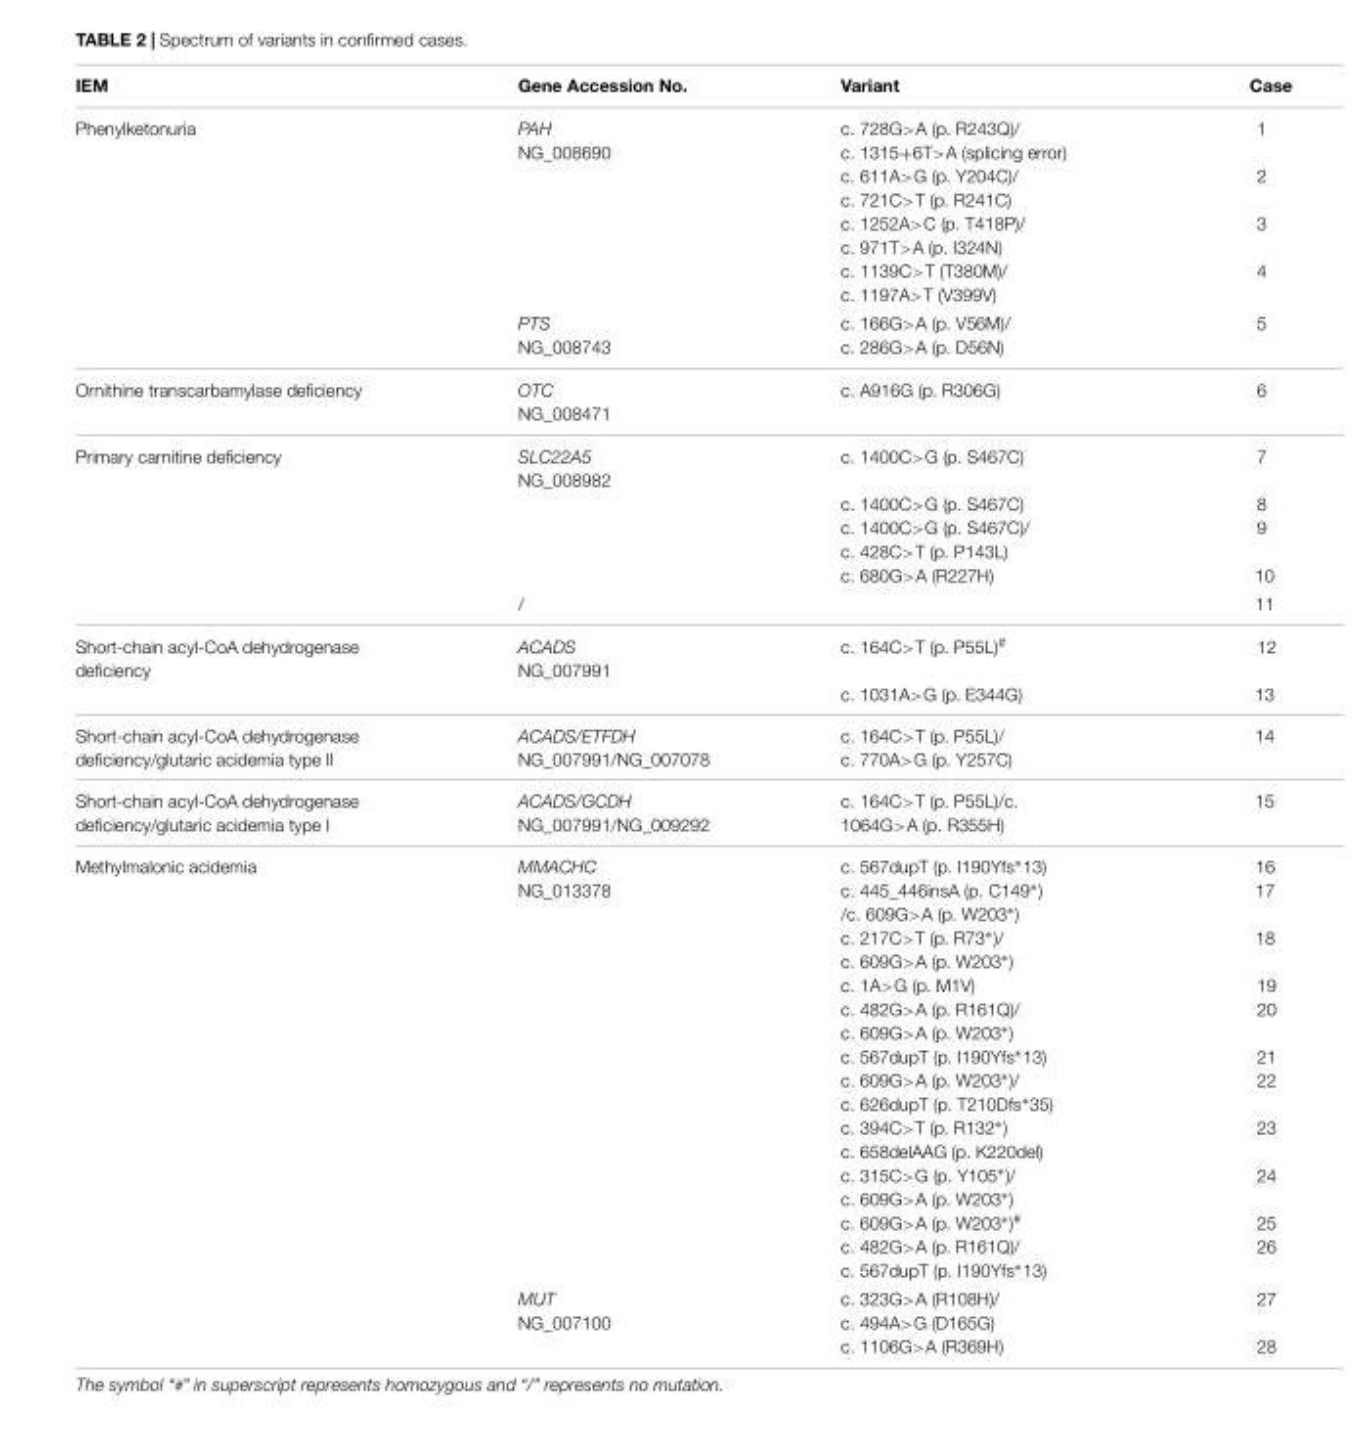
<table><thead><tr><td>IEM</td><td>Gene Accession No.</td><td>Variant</td><td>Case</td></tr></thead><tbody><tr><td rowspan="2">Phenylketonuria</td><td>PAH NG_008690</td><td>c. 728G&gt;A (p. R243Q)/ c. 1315+6T&gt;A (splicing error) c. 611A&gt;G (p. Y204C)/ c. 721C&gt;T (p. R241C) c. 1252A&gt;C (p. T418P)/ c. 971T&gt;A (p. I324N) c. 1139C&gt;T (T380M)/ c. 1197A&gt;T (V399V)</td><td>1 2 3 4</td></tr><tr><td>PTS NG_008743</td><td>c. 166G&gt;A (p. V56M)/ c. 286G&gt;A (p. D56N)</td><td>5</td></tr><tr><td>Ornithine transcarbamylase deficiency</td><td>OTC NG_008471</td><td>c. A916G (p. R306G)</td><td>6</td></tr><tr><td rowspan="2">Primary carnitine deficiency</td><td>SLC22A5 NG_008982</td><td>c. 1400C&gt;G (p. S467C) c. 1400C&gt;G (p. S467C) c. 1400C&gt;G (p. S467C)/ c. 428C&gt;T (p. P143L) c. 680G&gt;A (R227H)</td><td>7 8 9 10</td></tr><tr><td>/</td><td></td><td>11</td></tr><tr><td>Short-chain acyl-CoA dehydrogenase deficiency</td><td>ACADS NG_007991</td><td>c. 164C&gt;T (p. P55L)<sup>#</sup> c. 1031A&gt;G (p. E344G)</td><td>12 13</td></tr><tr><td>Short-chain acyl-CoA dehydrogenase deficiency/glutaric acidemia type II</td><td>ACADS/ETFDH NG_007991/NG_007078</td><td>c. 164C&gt;T (p. P55L)/ c. 770A&gt;G (p. Y257C)</td><td>14</td></tr><tr><td>Short-chain acyl-CoA dehydrogenase deficiency/glutaric acidemia type I</td><td>ACADS/GCDH NG_007991/NG_009292</td><td>c. 164C&gt;T (p. P55L)/c. 1064G&gt;A (p. R355H)</td><td>15</td></tr><tr><td rowspan="2">Methylmalonic acidemia</td><td>MMACHC NG_013378</td><td>c. 567dupT (p. I190Yfs∗13) c. 445_446insA (p. C149∗) /c. 609G&gt;A (p. W203∗) c. 217C&gt;T (p. R73∗)/ c. 609G&gt;A (p. W203∗) c. 1A&gt;G (p. M1V) c. 482G&gt;A (p. R161Q)/ c. 609G&gt;A (p. W203∗) c. 567dupT (p. I190Yfs∗13) c. 609G&gt;A (p. W203∗)/ c. 626dupT (p. T210Dfs∗35) c. 394C&gt;T (p. R132∗) c. 658delAAG (p. K220del) c. 315C&gt;G (p. Y105∗)/ c. 609G&gt;A (p. W203∗) c. 609G&gt;A (p. W203∗)<sup>#</sup> c. 482G&gt;A (p. R161Q)/ c. 567dupT (p. I190Yfs∗13)</td><td>16 17 18 19 20 21 22 23 24 25 26</td></tr><tr><td>MUT NG_007100</td><td>c. 323G&gt;A (R108H)/ c. 494A&gt;G (D165G) c. 1106G&gt;A (R369H)</td><td>27 28</td></tr></tbody></table>